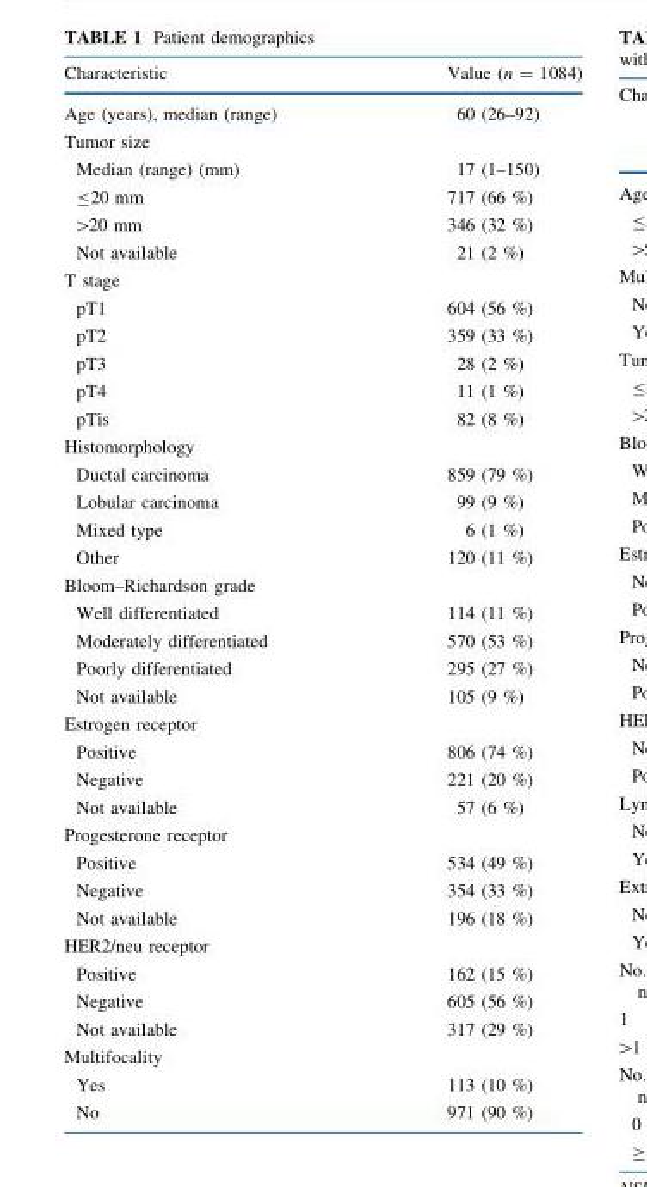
<table><thead><tr><td>Characteristic</td><td>Value (n = 1084)</td></tr></thead><tbody><tr><td>Age (years), median (range)</td><td>60 (26–92)</td></tr><tr><td colspan="2">Tumor size</td></tr><tr><td>Median (range) (mm)</td><td>17 (1–150)</td></tr><tr><td>≤20 mm</td><td>717 (66 %)</td></tr><tr><td>&gt;20 mm</td><td>346 (32 %)</td></tr><tr><td>Not available</td><td>21 (2 %)</td></tr><tr><td colspan="2">T stage</td></tr><tr><td>pT1</td><td>604 (56 %)</td></tr><tr><td>pT2</td><td>359 (33 %)</td></tr><tr><td>pT3</td><td>28 (2 %)</td></tr><tr><td>pT4</td><td>11 (1 %)</td></tr><tr><td>pTis</td><td>82 (8 %)</td></tr><tr><td colspan="2">Histomorphology</td></tr><tr><td>Ductal carcinoma</td><td>859 (79 %)</td></tr><tr><td>Lobular carcinoma</td><td>99 (9 %)</td></tr><tr><td>Mixed type</td><td>6 (1 %)</td></tr><tr><td>Other</td><td>120 (11 %)</td></tr><tr><td colspan="2">Bloom–Richardson grade</td></tr><tr><td>Well differentiated</td><td>114 (11 %)</td></tr><tr><td>Moderately differentiated</td><td>570 (53 %)</td></tr><tr><td>Poorly differentiated</td><td>295 (27 %)</td></tr><tr><td>Not available</td><td>105 (9 %)</td></tr><tr><td colspan="2">Estrogen receptor</td></tr><tr><td>Positive</td><td>806 (74 %)</td></tr><tr><td>Negative</td><td>221 (20 %)</td></tr><tr><td>Not available</td><td>57 (6 %)</td></tr><tr><td colspan="2">Progesterone receptor</td></tr><tr><td>Positive</td><td>534 (49 %)</td></tr><tr><td>Negative</td><td>354 (33 %)</td></tr><tr><td>Not available</td><td>196 (18 %)</td></tr><tr><td colspan="2">HER2/neu receptor</td></tr><tr><td>Positive</td><td>162 (15 %)</td></tr><tr><td>Negative</td><td>605 (56 %)</td></tr><tr><td>Not available</td><td>317 (29 %)</td></tr><tr><td colspan="2">Multifocality</td></tr><tr><td>Yes</td><td>113 (10 %)</td></tr><tr><td>No</td><td>971 (90 %)</td></tr></tbody></table>